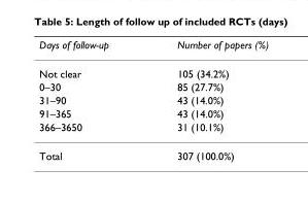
<table><thead><tr><td>Days of follow-up</td><td>Number of papers (%)</td></tr></thead><tbody><tr><td>Not clear</td><td>105 (34.2%)</td></tr><tr><td>0–30</td><td>85 (27.7%)</td></tr><tr><td>31–90</td><td>43 (14.0%)</td></tr><tr><td>91–365</td><td>43 (14.0%)</td></tr><tr><td>366–3650</td><td>31 (10.1%)</td></tr><tr><td>Total</td><td>307 (100.0%)</td></tr></tbody></table>